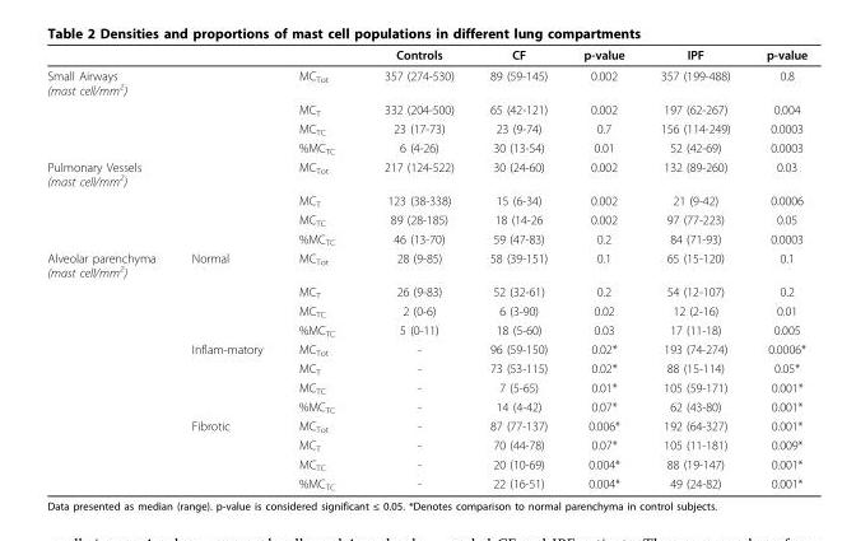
<table><thead><tr><td></td><td></td><td></td><td>Controls</td><td>CF</td><td>p-value</td><td>IPF</td><td>p-value</td></tr></thead><tbody><tr><td colspan="2">Small Airways (mast cell/mm<sup>2</sup>)</td><td>MC<sub>Tot</sub></td><td>357 (274-530)</td><td>89 (59-145)</td><td>0.002</td><td>357 (199-488)</td><td>0.8</td></tr><tr><td></td><td></td><td>MC<sub>T</sub></td><td>332 (204-500)</td><td>65 (42-121)</td><td>0.002</td><td>197 (62-267)</td><td>0.004</td></tr><tr><td></td><td></td><td>MC<sub>TC</sub></td><td>23 (17-73)</td><td>23 (9-74)</td><td>0.7</td><td>156 (114-249)</td><td>0.0003</td></tr><tr><td></td><td></td><td>%MC<sub>TC</sub></td><td>6 (4-26)</td><td>30 (13-54)</td><td>0.01</td><td>52 (42-69)</td><td>0.0003</td></tr><tr><td colspan="2">Pulmonary Vessels (mast cell/mm<sup>2</sup>)</td><td>MC<sub>Tot</sub></td><td>217 (124-522)</td><td>30 (24-60)</td><td>0.002</td><td>132 (89-260)</td><td>0.03</td></tr><tr><td></td><td></td><td>MC<sub>T</sub></td><td>123 (38-338)</td><td>15 (6-34)</td><td>0.002</td><td>21 (9-42)</td><td>0.0006</td></tr><tr><td></td><td></td><td>MC<sub>TC</sub></td><td>89 (28-185)</td><td>18 (14-26</td><td>0.002</td><td>97 (77-223)</td><td>0.05</td></tr><tr><td></td><td></td><td>%MC<sub>TC</sub></td><td>46 (13-70)</td><td>59 (47-83)</td><td>0.2</td><td>84 (71-93)</td><td>0.0003</td></tr><tr><td rowspan="12">Alveolar parenchyma (mast cell/mm<sup>2</sup>)</td><td>Normal</td><td>MC<sub>Tot</sub></td><td>28 (9-85)</td><td>58 (39-151)</td><td>0.1</td><td>65 (15-120)</td><td>0.1</td></tr><tr><td></td><td>MC<sub>T</sub></td><td>26 (9-83)</td><td>52 (32-61)</td><td>0.2</td><td>54 (12-107)</td><td>0.2</td></tr><tr><td></td><td>MC<sub>TC</sub></td><td>2 (0-6)</td><td>6 (3-90)</td><td>0.02</td><td>12 (2-16)</td><td>0.01</td></tr><tr><td></td><td>%MC<sub>TC</sub></td><td>5 (0-11)</td><td>18 (5-60)</td><td>0.03</td><td>17 (11-18)</td><td>0.005</td></tr><tr><td>Inflam-matory</td><td>MC<sub>Tot</sub></td><td>-</td><td>96 (59-150)</td><td>0.02*</td><td>193 (74-274)</td><td>0.0006*</td></tr><tr><td></td><td>MC<sub>T</sub></td><td>-</td><td>73 (53-115)</td><td>0.02*</td><td>88 (15-114)</td><td>0.05*</td></tr><tr><td></td><td>MC<sub>TC</sub></td><td>-</td><td>7 (5-65)</td><td>0.01*</td><td>105 (59-171)</td><td>0.001*</td></tr><tr><td></td><td>%MC<sub>TC</sub></td><td>-</td><td>14 (4-42)</td><td>0.07*</td><td>62 (43-80)</td><td>0.001*</td></tr><tr><td>Fibrotic</td><td>MC<sub>Tot</sub></td><td>-</td><td>87 (77-137)</td><td>0.006*</td><td>192 (64-327)</td><td>0.001*</td></tr><tr><td></td><td>MC<sub>T</sub></td><td>-</td><td>70 (44-78)</td><td>0.07*</td><td>105 (11-181)</td><td>0.009*</td></tr><tr><td></td><td>MC<sub>TC</sub></td><td>-</td><td>20 (10-69)</td><td>0.004*</td><td>88 (19-147)</td><td>0.001*</td></tr><tr><td></td><td>%MC<sub>TC</sub></td><td>-</td><td>22 (16-51)</td><td>0.004*</td><td>49 (24-82)</td><td>0.001*</td></tr></tbody></table>